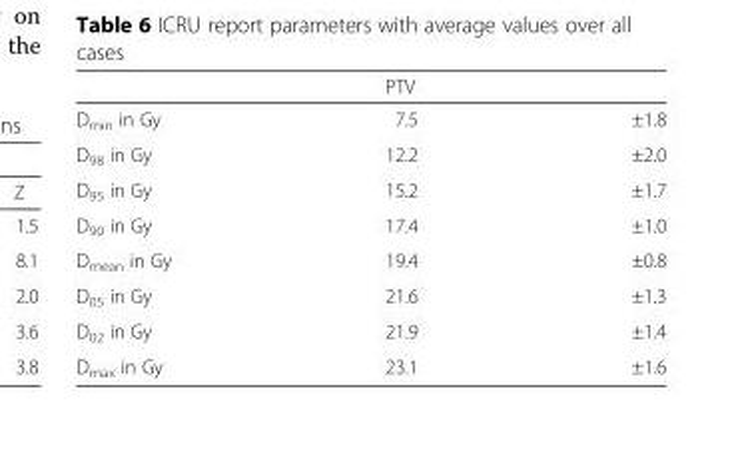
<table><thead><tr><td rowspan="2">D<sub>min</sub> in Gy</td><td colspan="2">PTV</td></tr><tr><td>7.5</td><td>±1.8</td></tr></thead><tbody><tr><td>D<sub>98</sub> in Gy</td><td>12.2</td><td>±2.0</td></tr><tr><td>D<sub>95</sub> in Gy</td><td>15.2</td><td>±1.7</td></tr><tr><td>D<sub>90</sub> in Gy</td><td>17.4</td><td>±1.0</td></tr><tr><td>D<sub>mean</sub> in Gy</td><td>19.4</td><td>±0.8</td></tr><tr><td>D<sub>05</sub> in Gy</td><td>21.6</td><td>±1.3</td></tr><tr><td>D<sub>02</sub> in Gy</td><td>21.9</td><td>±1.4</td></tr><tr><td>D<sub>max</sub> in Gy</td><td>23.1</td><td>±1.6</td></tr></tbody></table>